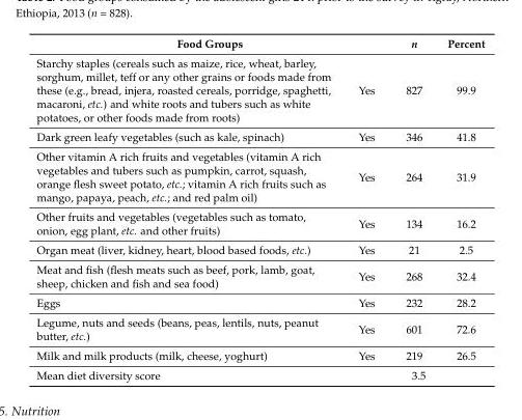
<table><thead><tr><td colspan="2">Food Groups</td><td rowspan="2">n 827</td><td rowspan="2">Percent 99.9</td></tr><tr><td>Starchy staples (cereals such as maize, rice, wheat, barley, sorghum, millet, teff or any other grains or foods made from these (e.g., bread, injera, roasted cereals, porridge, spaghetti, macaroni, etc.) and white roots and tubers such as white potatoes, or other foods made from roots)</td><td>Yes</td></tr></thead><tbody><tr><td>Dark green leafy vegetables (such as kale, spinach)</td><td>Yes</td><td>346</td><td>41.8</td></tr><tr><td>Other vitamin A rich fruits and vegetables (vitamin A rich vegetables and tubers such as pumpkin, carrot, squash, orange flesh sweet potato, etc.; vitamin A rich fruits such as mango, papaya, peach, etc.; and red palm oil)</td><td>Yes</td><td>264</td><td>31.9</td></tr><tr><td>Other fruits and vegetables (vegetables such as tomato, onion, egg plant, etc. and other fruits)</td><td>Yes</td><td>134</td><td>16.2</td></tr><tr><td>Organ meat (liver, kidney, heart, blood based foods, etc.)</td><td>Yes</td><td>21</td><td>2.5</td></tr><tr><td>Meat and fish (flesh meats such as beef, pork, lamb, goat, sheep, chicken and fish and sea food)</td><td>Yes</td><td>268</td><td>32.4</td></tr><tr><td>Eggs</td><td>Yes</td><td>232</td><td>28.2</td></tr><tr><td>Legume, nuts and seeds (beans, peas, lentils, nuts, peanut butter, etc.)</td><td>Yes</td><td>601</td><td>72.6</td></tr><tr><td>Milk and milk products (milk, cheese, yoghurt)</td><td>Yes</td><td>219</td><td>26.5</td></tr><tr><td>Mean diet diversity score</td><td colspan="3">3.5</td></tr></tbody></table>